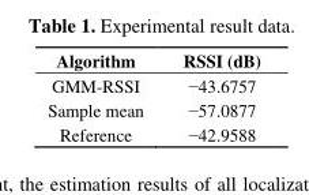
<table><thead><tr><td>Algorithm</td><td>RSSI (dB)</td></tr></thead><tbody><tr><td>GMM-RSSI</td><td>−43.6757</td></tr><tr><td>Sample mean</td><td>−57.0877</td></tr><tr><td>Reference</td><td>−42.9588</td></tr></tbody></table>